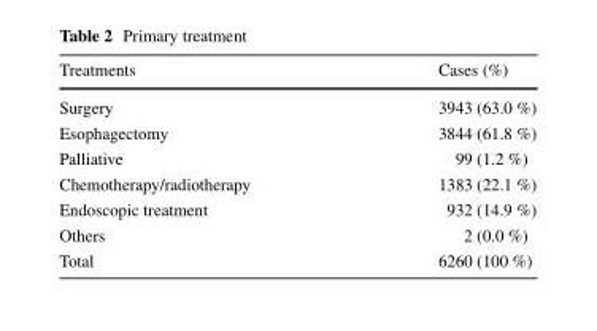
<table><thead><tr><td>Treatments</td><td>Cases (%)</td></tr></thead><tbody><tr><td>Surgery</td><td>3943 (63.0 %)</td></tr><tr><td>Esophagectomy</td><td>3844 (61.8 %)</td></tr><tr><td>Palliative</td><td>99 (1.2 %)</td></tr><tr><td>Chemotherapy/radiotherapy</td><td>1383 (22.1 %)</td></tr><tr><td>Endoscopic treatment</td><td>932 (14.9 %)</td></tr><tr><td>Others</td><td>2 (0.0 %)</td></tr><tr><td>Total</td><td>6260 (100 %)</td></tr></tbody></table>